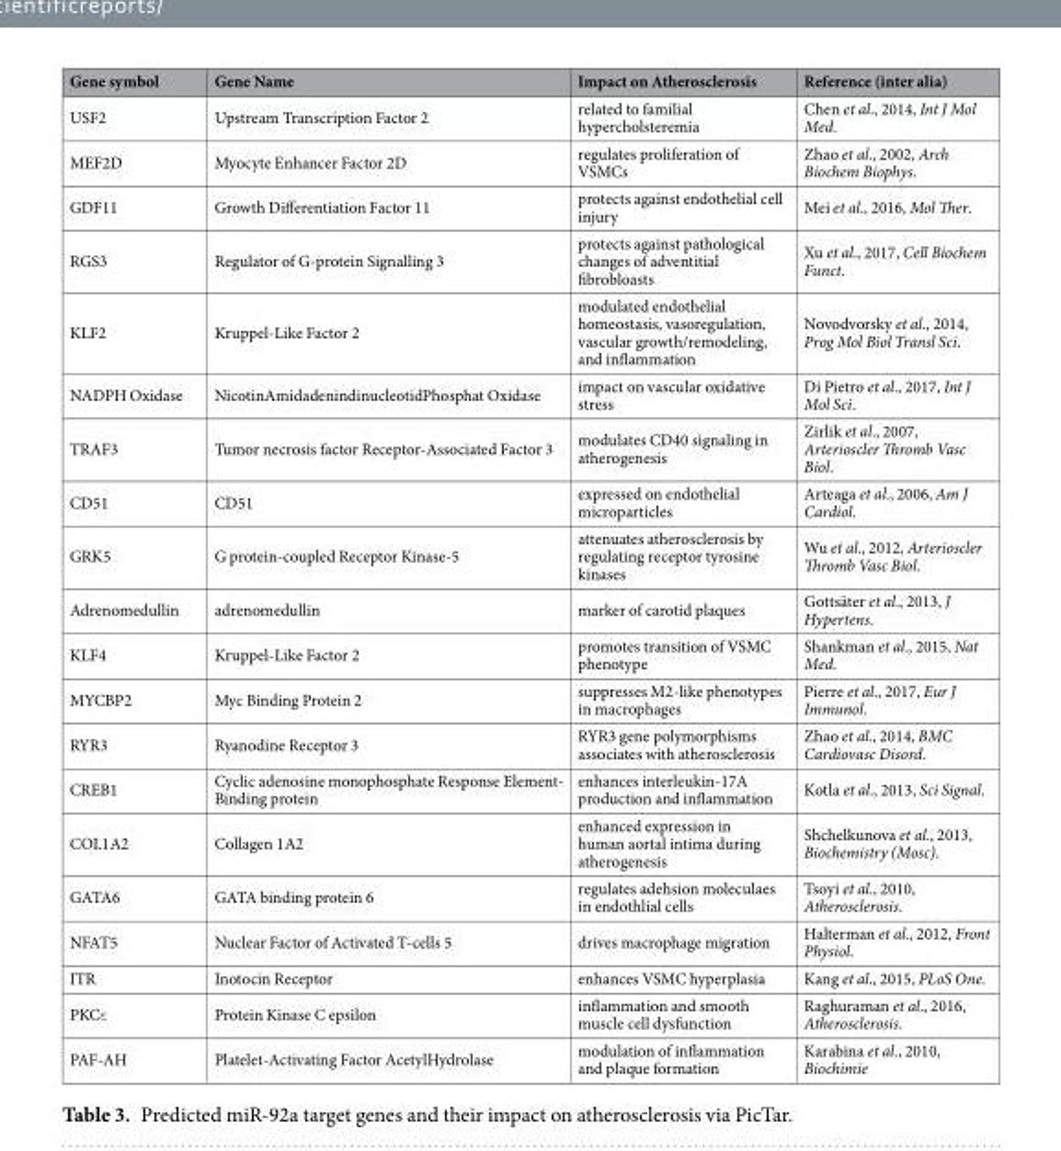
<table><thead><tr><td>Gene symbol</td><td>Gene Name</td><td>Impact on Atherosclerosis</td><td>Reference (inter alia)</td></tr></thead><tbody><tr><td>USF2</td><td>Upstream Transcription Factor 2</td><td>related to familial hypercholsteremia</td><td>Chen et al., 2014, Int J Mol Med.</td></tr><tr><td>MEF2D</td><td>Myocyte Enhancer Factor 2D</td><td>regulates proliferation of VSMCs</td><td>Zhao et al., 2002, Arch Biochem Biophys.</td></tr><tr><td>GDF11</td><td>Growth Differentiation Factor 11</td><td>protects against endothelial cell injury</td><td>Mei et al., 2016, Mol Ther.</td></tr><tr><td>RGS3</td><td>Regulator of G-protein Signalling 3</td><td>protects against pathological changes of adventitial fibrobloasts</td><td>Xu et al., 2017, Cell Biochem Funct.</td></tr><tr><td>KLF2</td><td>Kruppel-Like Factor 2</td><td>modulated endothelial homeostasis, vasoregulation, vascular growth/remodeling, and inflammation</td><td>Novodvorsky et al., 2014, Prog Mol Biol Transl Sci.</td></tr><tr><td>NADPH Oxidase</td><td>NicotinAmidadenindinucleotidPhosphat Oxidase</td><td>impact on vascular oxidative stress</td><td>Di Pietro et al., 2017, Int J Mol Sci.</td></tr><tr><td>TRAF3</td><td>Tumor necrosis factor Receptor-Associated Factor 3</td><td>modulates CD40 signaling in atherogenesis</td><td>Zirlik et al., 2007, Arterioscler Thromb Vasc Biol.</td></tr><tr><td>CD51</td><td>CD51</td><td>expressed on endothelial microparticles</td><td>Arteaga et al., 2006, Am J Cardiol.</td></tr><tr><td>GRK5</td><td>G protein-coupled Receptor Kinase-5</td><td>attenuates atherosclerosis by regulating receptor tyrosine kinases</td><td>Wu et al., 2012, Arterioscler Thromb Vasc Biol.</td></tr><tr><td>Adrenomedullin</td><td>adrenomedullin</td><td>marker of carotid plaques</td><td>Gottsäter et al., 2013, J Hypertens.</td></tr><tr><td>KLF4</td><td>Kruppel-Like Factor 2</td><td>promotes transition of VSMC phenotype</td><td>Shankman et al., 2015, Nat Med.</td></tr><tr><td>MYCBP2</td><td>Myc Binding Protein 2</td><td>suppresses M2-like phenotypes in macrophages</td><td>Pierre et al., 2017, Eur J Immunol.</td></tr><tr><td>RYR3</td><td>Ryanodine Receptor 3</td><td>RYR3 gene polymorphisms associates with atherosclerosis</td><td>Zhao et al., 2014, BMC Cardiovasc Disord.</td></tr><tr><td>CREB1</td><td>Cyclic adenosine monophosphate Response Element- Binding protein</td><td>enhances interleukin-17A production and inflammation</td><td>Kotla et al., 2013, Sci Signal.</td></tr><tr><td>COL1A2</td><td>Collagen 1A2</td><td>enhanced expression in human aortal intima during atherogenesis</td><td>Shchelkunova et al., 2013, Biochemistry (Mosc).</td></tr><tr><td>GATA6</td><td>GATA binding protein 6</td><td>regulates adehsion moleculaes in endothlial cells</td><td>Tsoyi et al., 2010, Atherosclerosis.</td></tr><tr><td>NFAT5</td><td>Nuclear Factor of Activated T-cells 5</td><td>drives macrophage migration</td><td>Halterman et al., 2012, Front Physiol.</td></tr><tr><td>ITR</td><td>Inotocin Receptor</td><td>enhances VSMC hyperplasia</td><td>Kang et al., 2015, PLoS One.</td></tr><tr><td>PKCε</td><td>Protein Kinase C epsilon</td><td>inflammation and smooth muscle cell dysfunction</td><td>Raghuraman et al., 2016, Atherosclerosis.</td></tr><tr><td>PAF-AH</td><td>Platelet-Activating Factor AcetylHydrolase</td><td>modulation of inflammation and plaque formation</td><td>Karabina et al., 2010, Biochimie</td></tr></tbody></table>